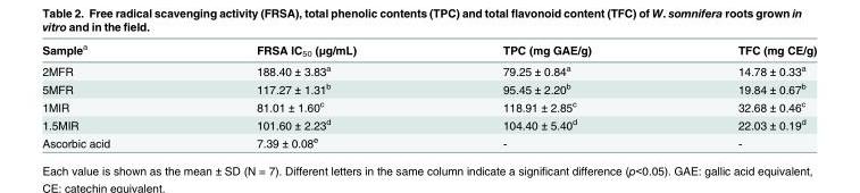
<table><thead><tr><td>Sample<sup>a</sup></td><td>FRSA IC<sub>50</sub> (μg/mL)</td><td>TPC (mg GAE/g)</td><td>TFC (mg CE/g)</td></tr></thead><tbody><tr><td>2MFR</td><td>188.40 ± 3.83<sup>a</sup></td><td>79.25 ± 0.84<sup>a</sup></td><td>14.78 ± 0.33<sup>a</sup></td></tr><tr><td>5MFR</td><td>117.27 ± 1.31<sup>b</sup></td><td>95.45 ± 2.20<sup>b</sup></td><td>19.84 ± 0.67<sup>b</sup></td></tr><tr><td>1MIR</td><td>81.01 ± 1.60<sup>c</sup></td><td>118.91 ± 2.85<sup>c</sup></td><td>32.68 ± 0.46<sup>c</sup></td></tr><tr><td>1.5MIR</td><td>101.60 ± 2.23<sup>d</sup></td><td>104.40 ± 5.40<sup>d</sup></td><td>22.03 ± 0.19<sup>d</sup></td></tr><tr><td>Ascorbic acid</td><td>7.39 ± 0.08<sup>e</sup></td><td>-</td><td>-</td></tr></tbody></table>